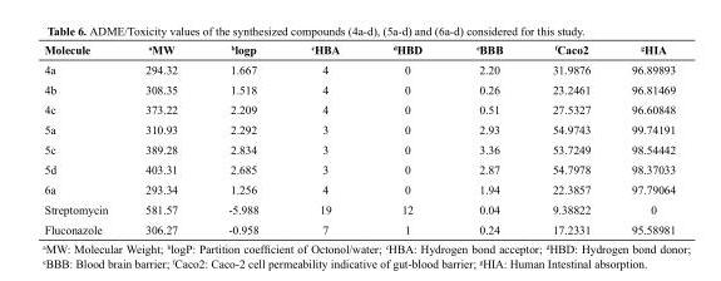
<table><thead><tr><td>Molecule</td><td>aMW</td><td>blogp</td><td>cHBA</td><td>dHBD</td><td>eBBB</td><td>fCaco2</td><td>gHIA</td></tr></thead><tbody><tr><td>4a</td><td>294.32</td><td>1.667</td><td>4</td><td>0</td><td>2.20</td><td>31.9876</td><td>96.89893</td></tr><tr><td>4b</td><td>308.35</td><td>1.518</td><td>4</td><td>0</td><td>0.26</td><td>23.2461</td><td>96.81469</td></tr><tr><td>4c</td><td>373.22</td><td>2.209</td><td>4</td><td>0</td><td>0.51</td><td>27.5327</td><td>96.60848</td></tr><tr><td>5a</td><td>310.93</td><td>2.292</td><td>3</td><td>0</td><td>2.93</td><td>54.9743</td><td>99.74191</td></tr><tr><td>5c</td><td>389.28</td><td>2.834</td><td>3</td><td>0</td><td>3.36</td><td>53.7249</td><td>98.54442</td></tr><tr><td>5d</td><td>403.31</td><td>2.685</td><td>3</td><td>0</td><td>2.87</td><td>54.7978</td><td>98.37033</td></tr><tr><td>6a</td><td>293.34</td><td>1.256</td><td>4</td><td>0</td><td>1.94</td><td>22.3857</td><td>97.79064</td></tr><tr><td>Streptomycin</td><td>581.57</td><td>-5.988</td><td>19</td><td>12</td><td>0.04</td><td>9.38822</td><td>0</td></tr><tr><td>Fluconazole</td><td>306.27</td><td>-0.958</td><td>7</td><td>1</td><td>0.24</td><td>17.2331</td><td>95.58981</td></tr></tbody></table>